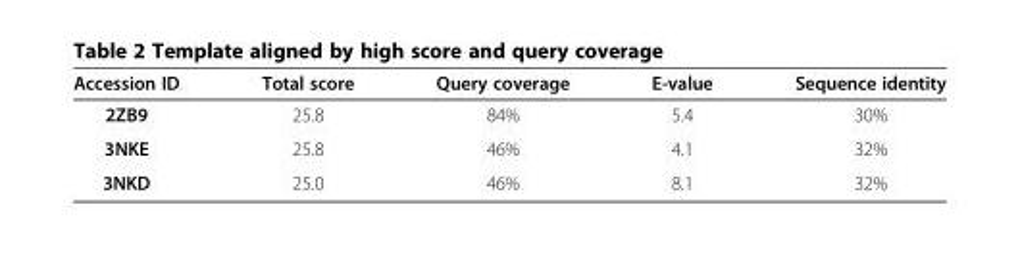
<table><thead><tr><td>Accession ID</td><td>Total score</td><td>Query coverage</td><td>E-value</td><td>Sequence identity</td></tr></thead><tbody><tr><td>2ZB9</td><td>25.8</td><td>84%</td><td>5.4</td><td>30%</td></tr><tr><td>3NKE</td><td>25.8</td><td>46%</td><td>4.1</td><td>32%</td></tr><tr><td>3NKD</td><td>25.0</td><td>46%</td><td>8.1</td><td>32%</td></tr></tbody></table>